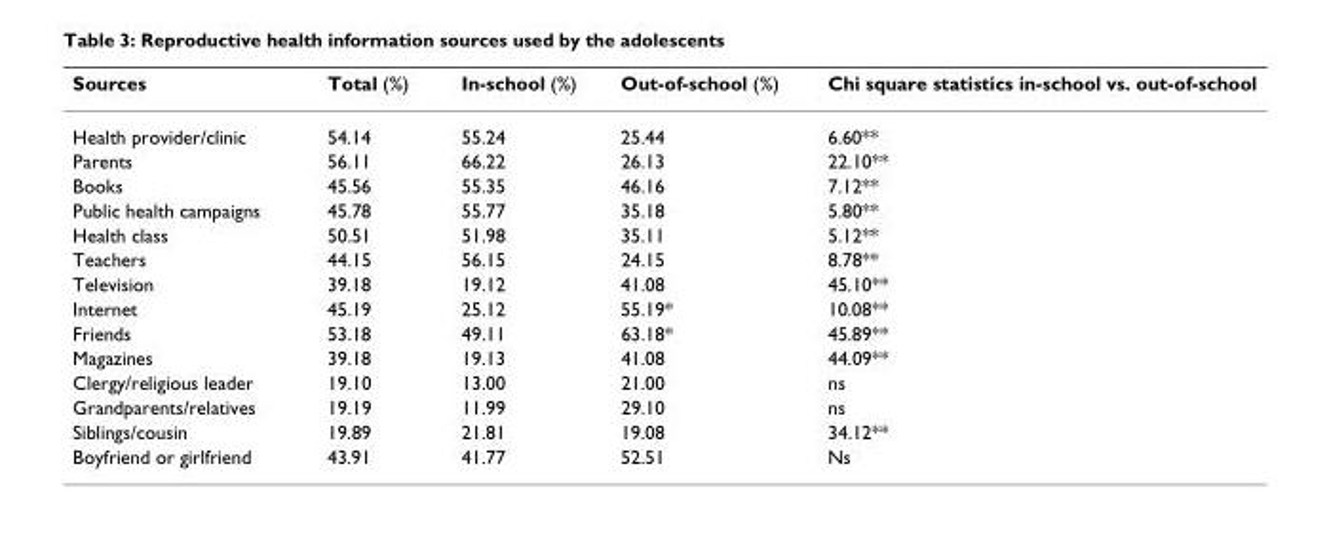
<table><thead><tr><td>Sources</td><td>Total (%)</td><td>In-school (%)</td><td>Out-of-school (%)</td><td>Chi square statistics in-school vs. out-of-school</td></tr></thead><tbody><tr><td>Health provider/clinic</td><td>54.14</td><td>55.24</td><td>25.44</td><td>6.60**</td></tr><tr><td>Parents</td><td>56.11</td><td>66.22</td><td>26.13</td><td>22.10**</td></tr><tr><td>Books</td><td>45.56</td><td>55.35</td><td>46.16</td><td>7.12**</td></tr><tr><td>Public health campaigns</td><td>45.78</td><td>55.77</td><td>35.18</td><td>5.80**</td></tr><tr><td>Health class</td><td>50.51</td><td>51.98</td><td>35.11</td><td>5.12**</td></tr><tr><td>Teachers</td><td>44.15</td><td>56.15</td><td>24.15</td><td>8.78**</td></tr><tr><td>Television</td><td>39.18</td><td>19.12</td><td>41.08</td><td>45.10**</td></tr><tr><td>Internet</td><td>45.19</td><td>25.12</td><td>55.19*</td><td>10.08**</td></tr><tr><td>Friends</td><td>53.18</td><td>49.11</td><td>63.18*</td><td>45.89**</td></tr><tr><td>Magazines</td><td>39.18</td><td>19.13</td><td>41.08</td><td>44.09**</td></tr><tr><td>Clergy/religious leader</td><td>19.10</td><td>13.00</td><td>21.00</td><td>ns</td></tr><tr><td>Grandparents/relatives</td><td>19.19</td><td>11.99</td><td>29.10</td><td>ns</td></tr><tr><td>Siblings/cousin</td><td>19.89</td><td>21.81</td><td>19.08</td><td>34.12**</td></tr><tr><td>Boyfriend or girlfriend</td><td>43.91</td><td>41.77</td><td>52.51</td><td>Ns</td></tr></tbody></table>